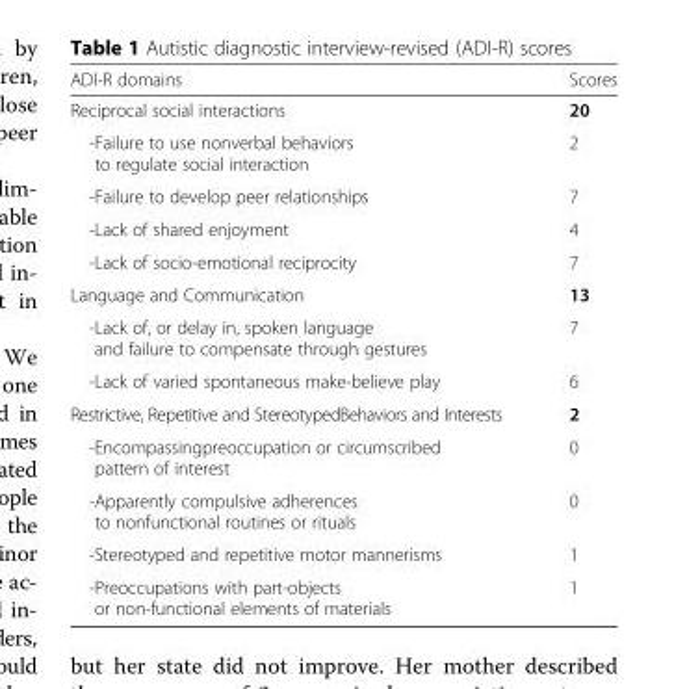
<table><thead><tr><td>ADI-R domains</td><td>Scores</td></tr></thead><tbody><tr><td>Reciprocal social interactions</td><td>20</td></tr><tr><td>-Failure to use nonverbal behaviors to regulate social interaction</td><td>2</td></tr><tr><td>-Failure to develop peer relationships</td><td>7</td></tr><tr><td>-Lack of shared enjoyment</td><td>4</td></tr><tr><td>-Lack of socio-emotional reciprocity</td><td>7</td></tr><tr><td>Language and Communication</td><td>13</td></tr><tr><td>-Lack of, or delay in, spoken language and failure to compensate through gestures</td><td>7</td></tr><tr><td>-Lack of varied spontaneous make-believe play</td><td>6</td></tr><tr><td>Restrictive, Repetitive and StereotypedBehaviors and Interests</td><td>2</td></tr><tr><td>-Encompassingpreoccupation or circumscribed pattern of interest</td><td>0</td></tr><tr><td>-Apparently compulsive adherences to nonfunctional routines or rituals</td><td>0</td></tr><tr><td>-Stereotyped and repetitive motor mannerisms</td><td>1</td></tr><tr><td>-Preoccupations with part-objects or non-functional elements of materials</td><td>1</td></tr></tbody></table>